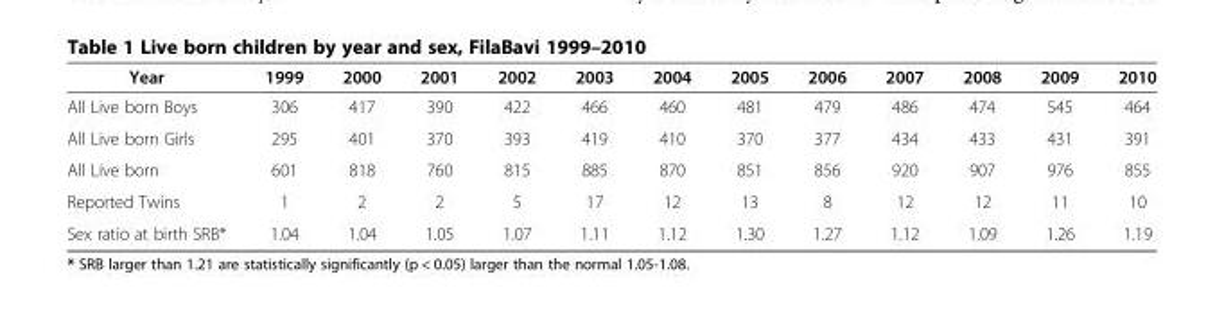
<table><thead><tr><td>Year</td><td>1999</td><td>2000</td><td>2001</td><td>2002</td><td>2003</td><td>2004</td><td>2005</td><td>2006</td><td>2007</td><td>2008</td><td>2009</td><td>2010</td></tr></thead><tbody><tr><td>All Live born Boys</td><td>306</td><td>417</td><td>390</td><td>422</td><td>466</td><td>460</td><td>481</td><td>479</td><td>486</td><td>474</td><td>545</td><td>464</td></tr><tr><td>All Live born Girls</td><td>295</td><td>401</td><td>370</td><td>393</td><td>419</td><td>410</td><td>370</td><td>377</td><td>434</td><td>433</td><td>431</td><td>391</td></tr><tr><td>All Live born</td><td>601</td><td>818</td><td>760</td><td>815</td><td>885</td><td>870</td><td>851</td><td>856</td><td>920</td><td>907</td><td>976</td><td>855</td></tr><tr><td>Reported Twins</td><td>1</td><td>2</td><td>2</td><td>5</td><td>17</td><td>12</td><td>13</td><td>8</td><td>12</td><td>12</td><td>11</td><td>10</td></tr><tr><td>Sex ratio at birth SRB*</td><td>1.04</td><td>1.04</td><td>1.05</td><td>1.07</td><td>1.11</td><td>1.12</td><td>1.30</td><td>1.27</td><td>1.12</td><td>1.09</td><td>1.26</td><td>1.19</td></tr></tbody></table>